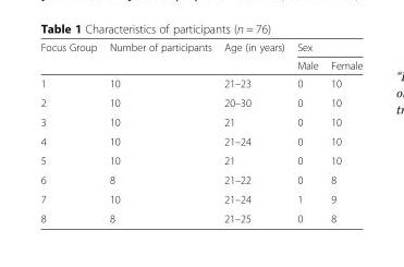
<table><thead><tr><td rowspan="2">Focus Group</td><td rowspan="2">Number of participants</td><td rowspan="2">Age (in years)</td><td colspan="2">Sex</td></tr><tr><td>Male</td><td>Female</td></tr></thead><tbody><tr><td>1</td><td>10</td><td>21–23</td><td>0</td><td>10</td></tr><tr><td>2</td><td>10</td><td>20–30</td><td>0</td><td>10</td></tr><tr><td>3</td><td>10</td><td>21</td><td>0</td><td>10</td></tr><tr><td>4</td><td>10</td><td>21–24</td><td>0</td><td>10</td></tr><tr><td>5</td><td>10</td><td>21</td><td>0</td><td>10</td></tr><tr><td>6</td><td>8</td><td>21–22</td><td>0</td><td>8</td></tr><tr><td>7</td><td>10</td><td>21–24</td><td>1</td><td>9</td></tr><tr><td>8</td><td>8</td><td>21–25</td><td>0</td><td>8</td></tr></tbody></table>